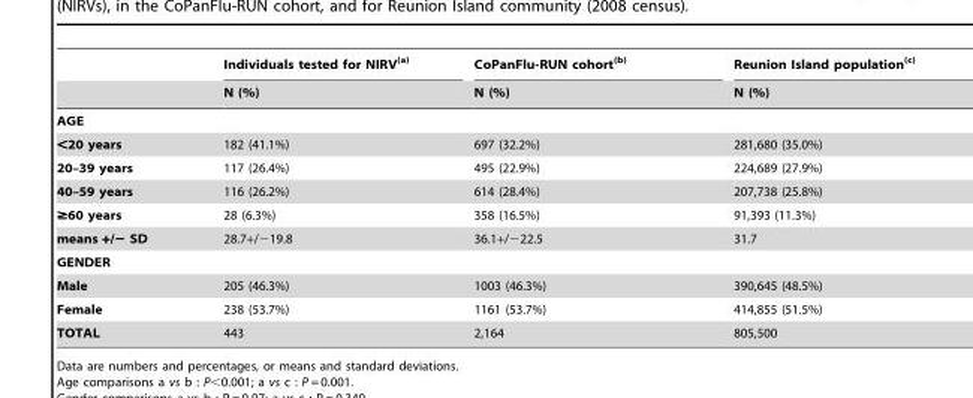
<table><thead><tr><td rowspan="2"></td><td rowspan="2">Individuals tested for NIRV<sup>(a)</sup> N (%)</td><td rowspan="2">CoPanFlu-RUN cohort<sup>(b)</sup> N (%)</td><td rowspan="2">Reunion Island population<sup>(c)</sup> N (%)</td></tr><tr></tr></thead><tbody><tr><td colspan="4">AGE</td></tr><tr><td>&lt;20 years</td><td>182 (41.1%)</td><td>697 (32.2%)</td><td>281,680 (35.0%)</td></tr><tr><td>20–39 years</td><td>117 (26.4%)</td><td>495 (22.9%)</td><td>224,689 (27.9%)</td></tr><tr><td>40–59 years</td><td>116 (26.2%)</td><td>614 (28.4%)</td><td>207,738 (25.8%)</td></tr><tr><td>≥60 years</td><td>28 (6.3%)</td><td>358 (16.5%)</td><td>91,393 (11.3%)</td></tr><tr><td>means +/− SD</td><td>28.7+/−19.8</td><td>36.1+/−22.5</td><td>31.7</td></tr><tr><td colspan="4">GENDER</td></tr><tr><td>Male</td><td>205 (46.3%)</td><td>1003 (46.3%)</td><td>390,645 (48.5%)</td></tr><tr><td>Female</td><td>238 (53.7%)</td><td>1161 (53.7%)</td><td>414,855 (51.5%)</td></tr><tr><td>TOTAL</td><td>443</td><td>2,164</td><td>805,500</td></tr></tbody></table>